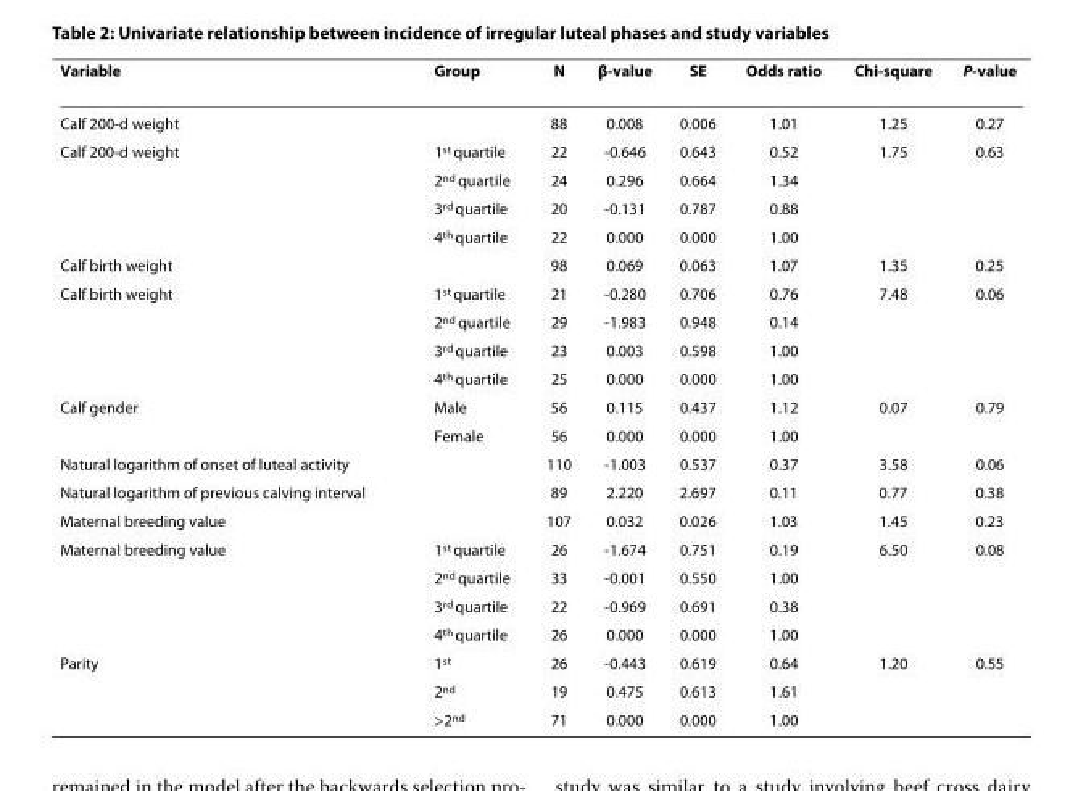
<table><thead><tr><td>Variable</td><td>Group</td><td>N</td><td>β-value</td><td>SE</td><td>Odds ratio</td><td>Chi-square</td><td>P-value</td></tr></thead><tbody><tr><td>Calf 200-d weight</td><td></td><td>88</td><td>0.008</td><td>0.006</td><td>1.01</td><td>1.25</td><td>0.27</td></tr><tr><td rowspan="4">Calf 200-d weight</td><td>1<sup>st</sup> quartile</td><td>22</td><td>-0.646</td><td>0.643</td><td>0.52</td><td>1.75</td><td>0.63</td></tr><tr><td>2<sup>nd</sup> quartile</td><td>24</td><td>0.296</td><td>0.664</td><td>1.34</td><td></td><td></td></tr><tr><td>3<sup>rd</sup> quartile</td><td>20</td><td>-0.131</td><td>0.787</td><td>0.88</td><td></td><td></td></tr><tr><td>4<sup>th</sup> quartile</td><td>22</td><td>0.000</td><td>0.000</td><td>1.00</td><td></td><td></td></tr><tr><td>Calf birth weight</td><td></td><td>98</td><td>0.069</td><td>0.063</td><td>1.07</td><td>1.35</td><td>0.25</td></tr><tr><td rowspan="4">Calf birth weight</td><td>1<sup>st</sup> quartile</td><td>21</td><td>-0.280</td><td>0.706</td><td>0.76</td><td>7.48</td><td>0.06</td></tr><tr><td>2<sup>nd</sup> quartile</td><td>29</td><td>-1.983</td><td>0.948</td><td>0.14</td><td></td><td></td></tr><tr><td>3<sup>rd</sup> quartile</td><td>23</td><td>0.003</td><td>0.598</td><td>1.00</td><td></td><td></td></tr><tr><td>4<sup>th</sup> quartile</td><td>25</td><td>0.000</td><td>0.000</td><td>1.00</td><td></td><td></td></tr><tr><td rowspan="2">Calf gender</td><td>Male</td><td>56</td><td>0.115</td><td>0.437</td><td>1.12</td><td>0.07</td><td>0.79</td></tr><tr><td>Female</td><td>56</td><td>0.000</td><td>0.000</td><td>1.00</td><td></td><td></td></tr><tr><td>Natural logarithm of onset of luteal activity</td><td></td><td>110</td><td>-1.003</td><td>0.537</td><td>0.37</td><td>3.58</td><td>0.06</td></tr><tr><td>Natural logarithm of previous calving interval</td><td></td><td>89</td><td>2.220</td><td>2.697</td><td>0.11</td><td>0.77</td><td>0.38</td></tr><tr><td>Maternal breeding value</td><td></td><td>107</td><td>0.032</td><td>0.026</td><td>1.03</td><td>1.45</td><td>0.23</td></tr><tr><td rowspan="4">Maternal breeding value</td><td>1<sup>st</sup> quartile</td><td>26</td><td>-1.674</td><td>0.751</td><td>0.19</td><td>6.50</td><td>0.08</td></tr><tr><td>2<sup>nd</sup> quartile</td><td>33</td><td>-0.001</td><td>0.550</td><td>1.00</td><td></td><td></td></tr><tr><td>3<sup>rd</sup> quartile</td><td>22</td><td>-0.969</td><td>0.691</td><td>0.38</td><td></td><td></td></tr><tr><td>4<sup>th</sup> quartile</td><td>26</td><td>0.000</td><td>0.000</td><td>1.00</td><td></td><td></td></tr><tr><td rowspan="3">Parity</td><td>1<sup>st</sup></td><td>26</td><td>-0.443</td><td>0.619</td><td>0.64</td><td>1.20</td><td>0.55</td></tr><tr><td>2<sup>nd</sup></td><td>19</td><td>0.475</td><td>0.613</td><td>1.61</td><td></td><td></td></tr><tr><td>&gt;2<sup>nd</sup></td><td>71</td><td>0.000</td><td>0.000</td><td>1.00</td><td></td><td></td></tr></tbody></table>